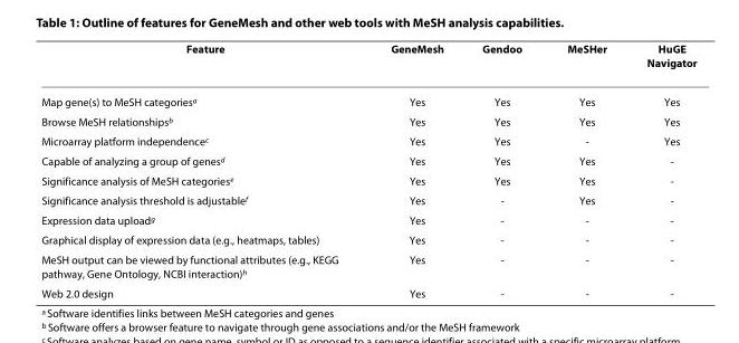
<table><thead><tr><td>Feature</td><td>GeneMesh</td><td>Gendoo</td><td>MeSHer</td><td>HuGE Navigator</td></tr></thead><tbody><tr><td>Map gene(s) to MeSH categories<sup>a</sup></td><td>Yes</td><td>Yes</td><td>Yes</td><td>Yes</td></tr><tr><td>Browse MeSH relationships<sup>b</sup></td><td>Yes</td><td>Yes</td><td>Yes</td><td>Yes</td></tr><tr><td>Microarray platform independence<sup>c</sup></td><td>Yes</td><td>Yes</td><td>-</td><td>Yes</td></tr><tr><td>Capable of analyzing a group of genes<sup>d</sup></td><td>Yes</td><td>Yes</td><td>Yes</td><td>-</td></tr><tr><td>Significance analysis of MeSH categories<sup>e</sup></td><td>Yes</td><td>Yes</td><td>Yes</td><td>-</td></tr><tr><td>Significance analysis threshold is adjustable<sup>f</sup></td><td>Yes</td><td>-</td><td>Yes</td><td>-</td></tr><tr><td>Expression data upload<sup>g</sup></td><td>Yes</td><td>-</td><td>-</td><td>-</td></tr><tr><td>Graphical display of expression data (e.g., heatmaps, tables)</td><td>Yes</td><td>-</td><td>-</td><td>-</td></tr><tr><td>MeSH output can be viewed by functional attributes (e.g., KEGG pathway, Gene Ontology, NCBI interaction)<sup>h</sup></td><td>Yes</td><td>-</td><td>-</td><td>-</td></tr><tr><td>Web 2.0 design</td><td>Yes</td><td>-</td><td>-</td><td>-</td></tr></tbody></table>